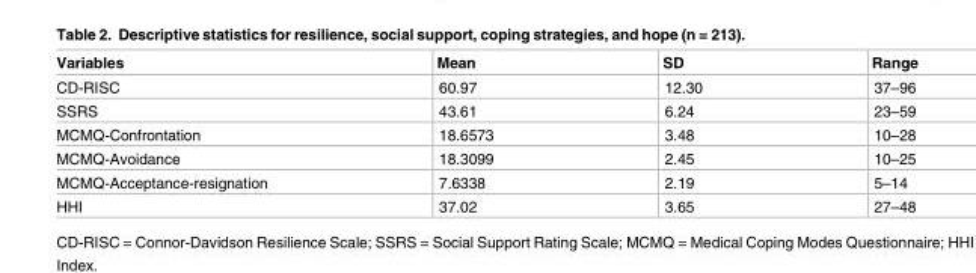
<table><thead><tr><td>Variables</td><td>Mean</td><td>SD</td><td>Range</td></tr></thead><tbody><tr><td>CD-RISC</td><td>60.97</td><td>12.30</td><td>37–96</td></tr><tr><td>SSRS</td><td>43.61</td><td>6.24</td><td>23–59</td></tr><tr><td>MCMQ-Confrontation</td><td>18.6573</td><td>3.48</td><td>10–28</td></tr><tr><td>MCMQ-Avoidance</td><td>18.3099</td><td>2.45</td><td>10–25</td></tr><tr><td>MCMQ-Acceptance-resignation</td><td>7.6338</td><td>2.19</td><td>5–14</td></tr><tr><td>HHI</td><td>37.02</td><td>3.65</td><td>27–48</td></tr></tbody></table>